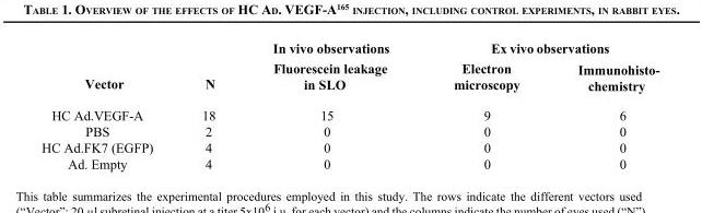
<table><thead><tr><td rowspan="2">Vector</td><td rowspan="2">N</td><td rowspan="2">In vivo observations Fluorescein leakage in SLO</td><td colspan="2">Ex vivo observations</td></tr><tr><td>Electron microscopy</td><td>Immunohisto- chemistry</td></tr></thead><tbody><tr><td>HC Ad.VEGF-A</td><td>18</td><td>15</td><td>9</td><td>6</td></tr><tr><td>PBS</td><td>2</td><td>0</td><td>0</td><td>0</td></tr><tr><td>HC Ad.FK7 (EGFP)</td><td>4</td><td>0</td><td>0</td><td>0</td></tr><tr><td>Ad. Empty</td><td>4</td><td>0</td><td>0</td><td>0</td></tr></tbody></table>